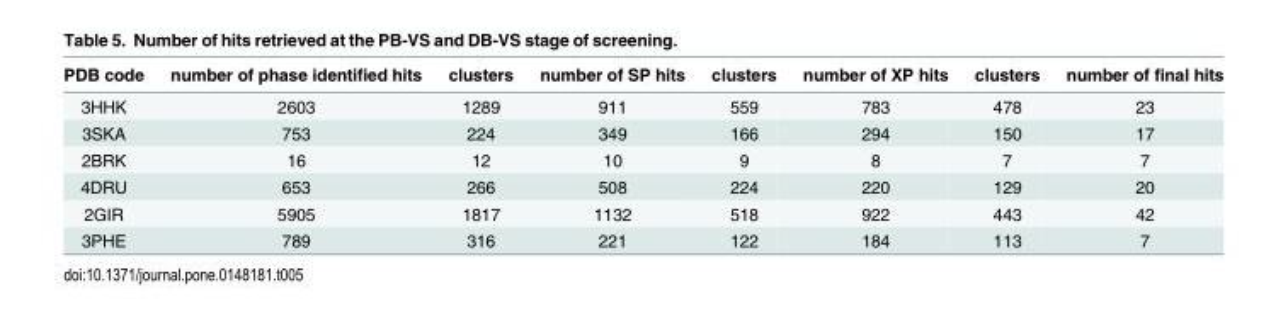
<table><thead><tr><td>PDB code</td><td>number of phase identified hits</td><td>clusters</td><td>number of SP hits</td><td>clusters</td><td>number of XP hits</td><td>clusters</td><td>number of final hits</td></tr></thead><tbody><tr><td>3HHK</td><td>2603</td><td>1289</td><td>911</td><td>559</td><td>783</td><td>478</td><td>23</td></tr><tr><td>3SKA</td><td>753</td><td>224</td><td>349</td><td>166</td><td>294</td><td>150</td><td>17</td></tr><tr><td>2BRK</td><td>16</td><td>12</td><td>10</td><td>9</td><td>8</td><td>7</td><td>7</td></tr><tr><td>4DRU</td><td>653</td><td>266</td><td>508</td><td>224</td><td>220</td><td>129</td><td>20</td></tr><tr><td>2GIR</td><td>5905</td><td>1817</td><td>1132</td><td>518</td><td>922</td><td>443</td><td>42</td></tr><tr><td>3PHE</td><td>789</td><td>316</td><td>221</td><td>122</td><td>184</td><td>113</td><td>7</td></tr></tbody></table>